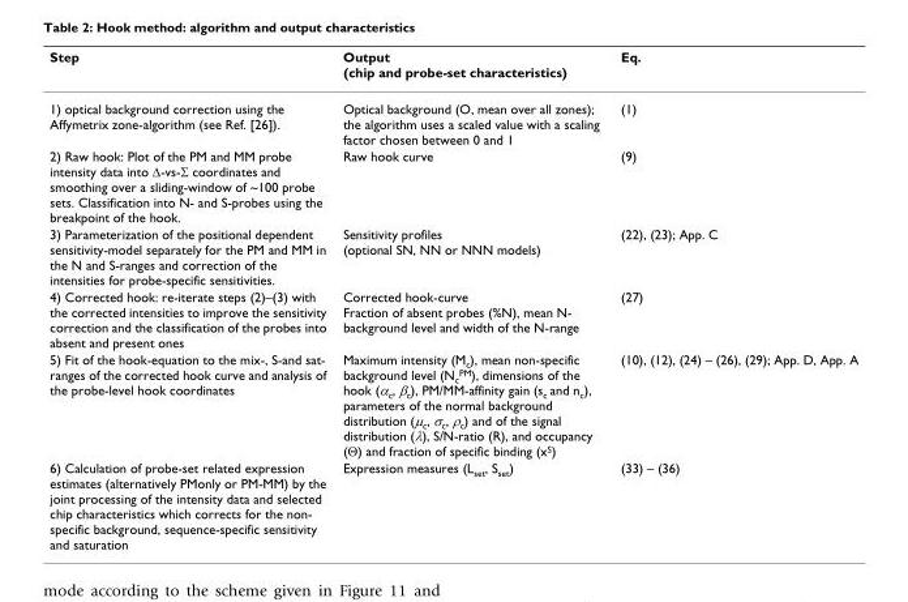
<table><thead><tr><td>Step</td><td>Output (chip and probe-set characteristics)</td><td>Eq.</td></tr></thead><tbody><tr><td>1) optical background correction using the Affymetrix zone-algorithm (see Ref. [26]).</td><td>Optical background (O, mean over all zones); the algorithm uses a scaled value with a scaling factor chosen between 0 and 1</td><td>(1)</td></tr><tr><td>2) Raw hook: Plot of the PM and MM probe intensity data into Δ-vs-Σ coordinates and smoothing over a sliding-window of ~100 probe sets. Classification into N- and S-probes using the breakpoint of the hook.</td><td>Raw hook curve</td><td>(9)</td></tr><tr><td>3) Parameterization of the positional dependent sensitivity-model separately for the PM and MM in the N and S-ranges and correction of the intensities for probe-specific sensitivities.</td><td>Sensitivity profiles (optional SN, NN or NNN models)</td><td>(22), (23); App. C</td></tr><tr><td>4) Corrected hook: re-iterate steps (2)–(3) with the corrected intensities to improve the sensitivity correction and the classification of the probes into absent and present ones</td><td>Corrected hook-curve Fraction of absent probes (%N), mean N- background level and width of the N-range</td><td>(27)</td></tr><tr><td>5) Fit of the hook-equation to the mix-, S-and sat- ranges of the corrected hook curve and analysis of the probe-level hook coordinates</td><td>Maximum intensity (M<sub>c</sub>), mean non-specific background level (N<sub>c</sub><sup>PM</sup>), dimensions of the hook (α<sub>c</sub>, β<sub>c</sub>), PM/MM-affinity gain (s<sub>c</sub> and n<sub>c</sub>), parameters of the normal background distribution (μ<sub>c</sub>, σ<sub>c</sub>, ρ<sub>c</sub>) and of the signal distribution (λ), S/N-ratio (R), and occupancy (Θ) and fraction of specific binding (x<sup>S</sup>)</td><td>(10), (12), (24) – (26), (29); App. D, App. A</td></tr><tr><td>6) Calculation of probe-set related expression estimates (alternatively PMonly or PM-MM) by the joint processing of the intensity data and selected chip characteristics which corrects for the non- specific background, sequence-specific sensitivity and saturation</td><td>Expression measures (L<sub>set</sub>, S<sub>set</sub>)</td><td>(33) – (36)</td></tr></tbody></table>